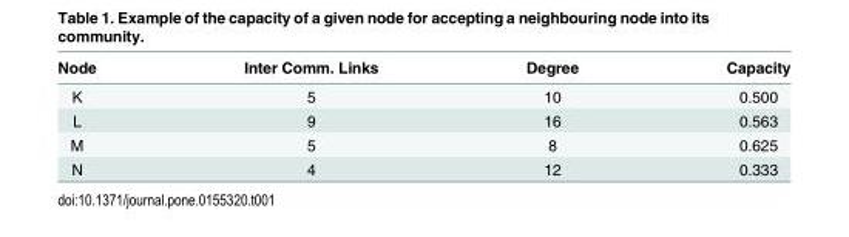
<table><thead><tr><td>Node</td><td>Inter Comm. Links</td><td>Degree</td><td>Capacity</td></tr></thead><tbody><tr><td>K</td><td>5</td><td>10</td><td>0.500</td></tr><tr><td>L</td><td>9</td><td>16</td><td>0.563</td></tr><tr><td>M</td><td>5</td><td>8</td><td>0.625</td></tr><tr><td>N</td><td>4</td><td>12</td><td>0.333</td></tr></tbody></table>